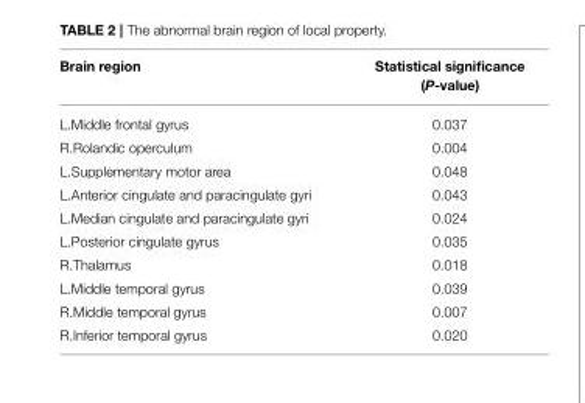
<table><thead><tr><td>Brain region</td><td>Statistical significance (P-value)</td></tr></thead><tbody><tr><td>L.Middle frontal gyrus</td><td>0.037</td></tr><tr><td>R.Rolandic operculum</td><td>0.004</td></tr><tr><td>L.Supplementary motor area</td><td>0.048</td></tr><tr><td>L.Anterior cingulate and paracingulate gyri</td><td>0.043</td></tr><tr><td>L.Median cingulate and paracingulate gyri</td><td>0.024</td></tr><tr><td>L.Posterior cingulate gyrus</td><td>0.035</td></tr><tr><td>R.Thalamus</td><td>0.018</td></tr><tr><td>L.Middle temporal gyrus</td><td>0.039</td></tr><tr><td>R.Middle temporal gyrus</td><td>0.007</td></tr><tr><td>R.Inferior temporal gyrus</td><td>0.020</td></tr></tbody></table>